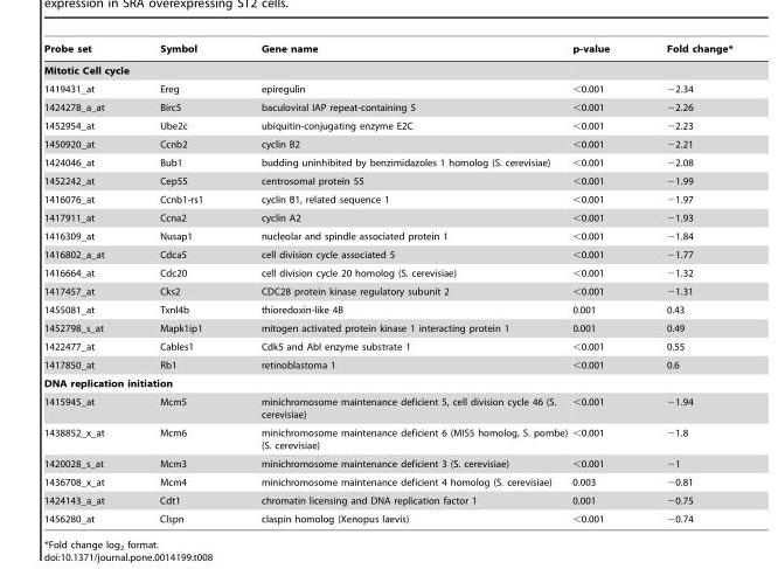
<table><thead><tr><td>Probe set</td><td>Symbol</td><td>Gene name</td><td>p-value</td><td>Fold change*</td></tr></thead><tbody><tr><td colspan="5">Mitotic Cell cycle</td></tr><tr><td>1419431_at</td><td>Ereg</td><td>epiregulin</td><td>&lt;0.001</td><td>−2.34</td></tr><tr><td>1424278_a_at</td><td>Birc5</td><td>baculoviral IAP repeat-containing 5</td><td>&lt;0.001</td><td>−2.26</td></tr><tr><td>1452954_at</td><td>Ube2c</td><td>ubiquitin-conjugating enzyme E2C</td><td>&lt;0.001</td><td>−2.23</td></tr><tr><td>1450920_at</td><td>Ccnb2</td><td>cyclin B2</td><td>&lt;0.001</td><td>−2.21</td></tr><tr><td>1424046_at</td><td>Bub1</td><td>budding uninhibited by benzimidazoles 1 homolog (S. cerevisiae)</td><td>&lt;0.001</td><td>−2.08</td></tr><tr><td>1452242_at</td><td>Cep55</td><td>centrosomal protein 55</td><td>&lt;0.001</td><td>−1.99</td></tr><tr><td>1416076_at</td><td>Ccnb1-rs1</td><td>cyclin B1, related sequence 1</td><td>&lt;0.001</td><td>−1.97</td></tr><tr><td>1417911_at</td><td>Ccna2</td><td>cyclin A2</td><td>&lt;0.001</td><td>−1.93</td></tr><tr><td>1416309_at</td><td>Nusap1</td><td>nucleolar and spindle associated protein 1</td><td>&lt;0.001</td><td>−1.84</td></tr><tr><td>1416802_a_at</td><td>Cdca5</td><td>cell division cycle associated 5</td><td>&lt;0.001</td><td>−1.77</td></tr><tr><td>1416664_at</td><td>Cdc20</td><td>cell division cycle 20 homolog (S. cerevisiae)</td><td>&lt;0.001</td><td>−1.32</td></tr><tr><td>1417457_at</td><td>Cks2</td><td>CDC28 protein kinase regulatory subunit 2</td><td>&lt;0.001</td><td>−1.31</td></tr><tr><td>1455081_at</td><td>Txnl4b</td><td>thioredoxin-like 4B</td><td>0.001</td><td>0.43</td></tr><tr><td>1452798_s_at</td><td>Mapk1ip1</td><td>mitogen activated protein kinase 1 interacting protein 1</td><td>0.001</td><td>0.49</td></tr><tr><td>1422477_at</td><td>Cables1</td><td>Cdk5 and Abl enzyme substrate 1</td><td>&lt;0.001</td><td>0.55</td></tr><tr><td>1417850_at</td><td>Rb1</td><td>retinoblastoma 1</td><td>&lt;0.001</td><td>0.6</td></tr><tr><td colspan="5">DNA replication initiation</td></tr><tr><td>1415945_at</td><td>Mcm5</td><td>minichromosome maintenance deficient 5, cell division cycle 46 (S. cerevisiae)</td><td>&lt;0.001</td><td>−1.94</td></tr><tr><td>1438852_x_at</td><td>Mcm6</td><td>minichromosome maintenance deficient 6 (MIS5 homolog, S. pombe) (S. cerevisiae)</td><td>&lt;0.001</td><td>−1.8</td></tr><tr><td>1420028_s_at</td><td>Mcm3</td><td>minichromosome maintenance deficient 3 (S. cerevisiae)</td><td>&lt;0.001</td><td>−1</td></tr><tr><td>1436708_x_at</td><td>Mcm4</td><td>minichromosome maintenance deficient 4 homolog (S. cerevisiae)</td><td>0.003</td><td>−0.81</td></tr><tr><td>1424143_a_at</td><td>Cdt1</td><td>chromatin licensing and DNA replication factor 1</td><td>0.001</td><td>−0.75</td></tr><tr><td>1456280_at</td><td>Clspn</td><td>claspin homolog (Xenopus laevis)</td><td>&lt;0.001</td><td>−0.74</td></tr></tbody></table>